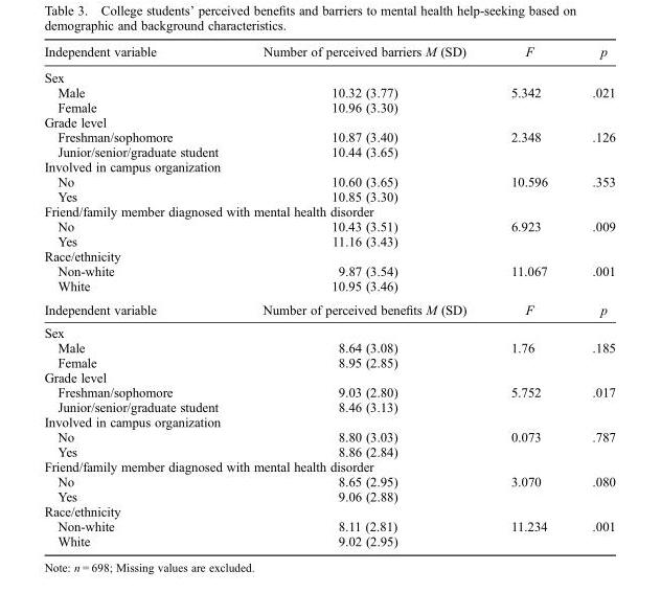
<table><thead><tr><td>Independent variable</td><td>Number of perceived barriers M (SD)</td><td>F</td><td>p</td></tr></thead><tbody><tr><td colspan="4">Sex</td></tr><tr><td>Male</td><td>10.32 (3.77)</td><td rowspan="2">5.342</td><td rowspan="2">.021</td></tr><tr><td>Female</td><td>10.96 (3.30)</td></tr><tr><td colspan="4">Grade level</td></tr><tr><td>Freshman/sophomore</td><td>10.87 (3.40)</td><td rowspan="2">2.348</td><td rowspan="2">.126</td></tr><tr><td>Junior/senior/graduate student</td><td>10.44 (3.65)</td></tr><tr><td colspan="4">Involved in campus organization</td></tr><tr><td>No</td><td>10.60 (3.65)</td><td rowspan="2">10.596</td><td rowspan="2">.353</td></tr><tr><td>Yes</td><td>10.85 (3.30)</td></tr><tr><td colspan="4">Friend/family member diagnosed with mental health disorder</td></tr><tr><td>No</td><td>10.43 (3.51)</td><td rowspan="2">6.923</td><td rowspan="2">.009</td></tr><tr><td>Yes</td><td>11.16 (3.43)</td></tr><tr><td colspan="4">Race/ethnicity</td></tr><tr><td>Non-white</td><td>9.87 (3.54)</td><td rowspan="2">11.067</td><td rowspan="2">.001</td></tr><tr><td>White</td><td>10.95 (3.46)</td></tr><tr><td>Independent variable</td><td>Number of perceived benefits M (SD)</td><td>F</td><td>p</td></tr><tr><td colspan="4">Sex</td></tr><tr><td>Male</td><td>8.64 (3.08)</td><td rowspan="2">1.76</td><td rowspan="2">.185</td></tr><tr><td>Female</td><td>8.95 (2.85)</td></tr><tr><td colspan="4">Grade level</td></tr><tr><td>Freshman/sophomore</td><td>9.03 (2.80)</td><td rowspan="2">5.752</td><td rowspan="2">.017</td></tr><tr><td>Junior/senior/graduate student</td><td>8.46 (3.13)</td></tr><tr><td colspan="4">Involved in campus organization</td></tr><tr><td>No</td><td>8.80 (3.03)</td><td rowspan="2">0.073</td><td rowspan="2">.787</td></tr><tr><td>Yes</td><td>8.86 (2.84)</td></tr><tr><td colspan="4">Friend/family member diagnosed with mental health disorder</td></tr><tr><td>No</td><td>8.65 (2.95)</td><td rowspan="2">3.070</td><td rowspan="2">.080</td></tr><tr><td>Yes</td><td>9.06 (2.88)</td></tr><tr><td colspan="4">Race/ethnicity</td></tr><tr><td>Non-white</td><td>8.11 (2.81)</td><td rowspan="2">11.234</td><td rowspan="2">.001</td></tr><tr><td>White</td><td>9.02 (2.95)</td></tr></tbody></table>